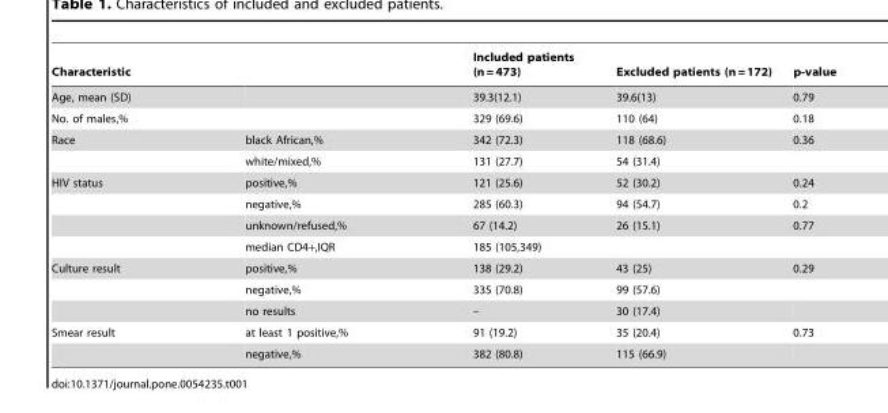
<table><thead><tr><td>Characteristic</td><td></td><td>Included patients (n = 473)</td><td>Excluded patients (n = 172)</td><td>p-value</td></tr></thead><tbody><tr><td>Age, mean (SD)</td><td></td><td>39.3(12.1)</td><td>39.6(13)</td><td>0.79</td></tr><tr><td>No. of males,%</td><td></td><td>329 (69.6)</td><td>110 (64)</td><td>0.18</td></tr><tr><td rowspan="2">Race</td><td>black African,%</td><td>342 (72.3)</td><td>118 (68.6)</td><td>0.36</td></tr><tr><td>white/mixed,%</td><td>131 (27.7)</td><td>54 (31.4)</td><td></td></tr><tr><td rowspan="4">HIV status</td><td>positive,%</td><td>121 (25.6)</td><td>52 (30.2)</td><td>0.24</td></tr><tr><td>negative,%</td><td>285 (60.3)</td><td>94 (54.7)</td><td>0.2</td></tr><tr><td>unknown/refused,%</td><td>67 (14.2)</td><td>26 (15.1)</td><td>0.77</td></tr><tr><td>median CD4+,IQR</td><td>185 (105,349)</td><td></td><td></td></tr><tr><td rowspan="3">Culture result</td><td>positive,%</td><td>138 (29.2)</td><td>43 (25)</td><td>0.29</td></tr><tr><td>negative,%</td><td>335 (70.8)</td><td>99 (57.6)</td><td></td></tr><tr><td>no results</td><td>–</td><td>30 (17.4)</td><td></td></tr><tr><td rowspan="2">Smear result</td><td>at least 1 positive,%</td><td>91 (19.2)</td><td>35 (20.4)</td><td>0.73</td></tr><tr><td>negative,%</td><td>382 (80.8)</td><td>115 (66.9)</td><td></td></tr></tbody></table>